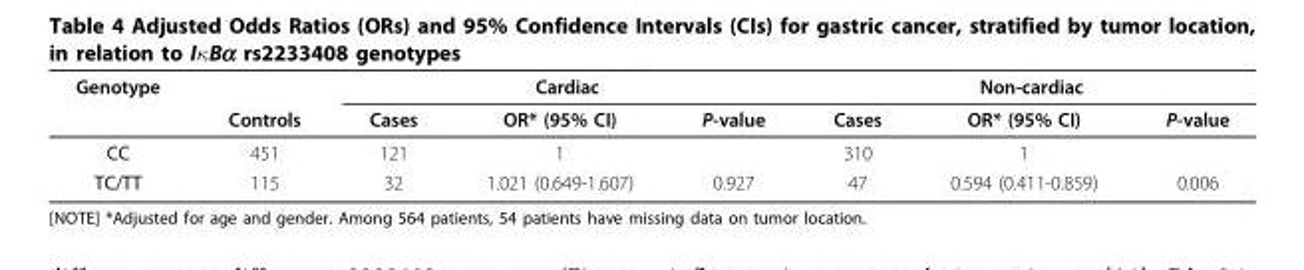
<table><thead><tr><td rowspan="2">Genotype</td><td rowspan="2">Controls</td><td colspan="3">Cardiac</td><td colspan="3">Non-cardiac</td></tr><tr><td>Cases</td><td>OR* (95% CI)</td><td>P-value</td><td>Cases</td><td>OR* (95% CI)</td><td>P-value</td></tr></thead><tbody><tr><td>CC</td><td>451</td><td>121</td><td>1</td><td></td><td>310</td><td>1</td><td></td></tr><tr><td>TC/TT</td><td>115</td><td>32</td><td>1.021 (0.649-1.607)</td><td>0.927</td><td>47</td><td>0.594 (0.411-0.859)</td><td>0.006</td></tr></tbody></table>